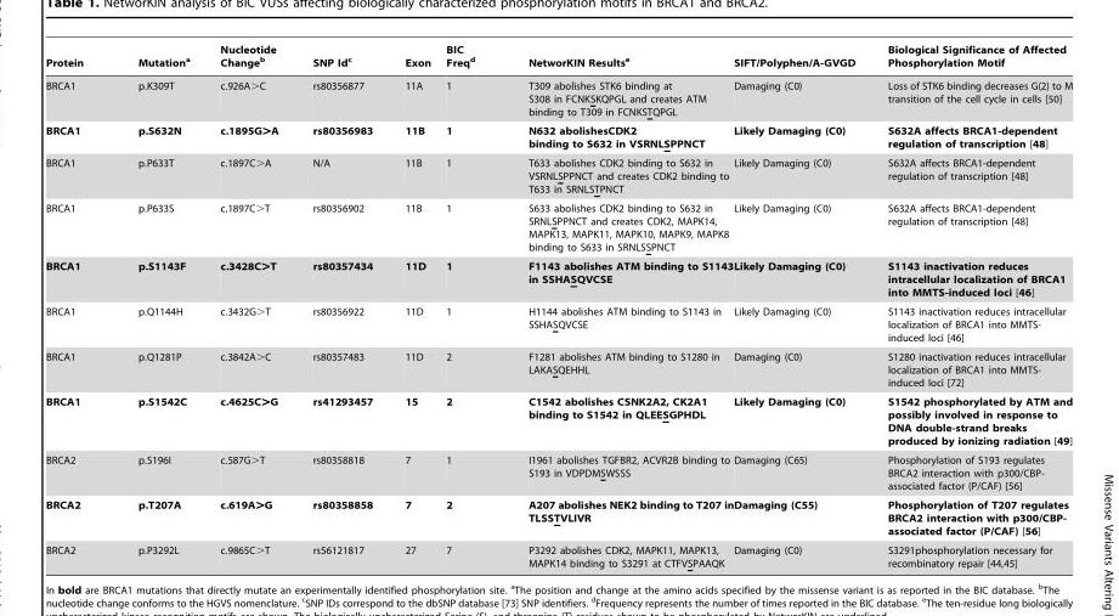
<table><thead><tr><td>Protein</td><td>Mutation<sup>a</sup></td><td>Nucleotide Change<sup>b</sup></td><td>SNP Id<sup>c</sup></td><td>Exon</td><td>BIC Freq<sup>d</sup></td><td>NetworKIN Results<sup>e</sup></td><td>SIFT/Polyphen/A-GVGD</td><td>Biological Significance of Affected Phosphorylation Motif</td></tr></thead><tbody><tr><td>BRCA1</td><td>p.K309T</td><td>c.926A&gt;C</td><td>rs80356877</td><td>11A</td><td>1</td><td>T309 abolishes STK6 binding at S308 in FCNKSKQPGL and creates ATM binding to T309 in FCNKSTQPGL</td><td>Damaging (C0)</td><td>Loss of STK6 binding decreases G(2) to M transition of the cell cycle in cells [50]</td></tr><tr><td>BRCA1</td><td>p.S632N</td><td>c.1895G&gt;A</td><td>rs80356983</td><td>11B</td><td>1</td><td>N632 abolishesCDK2 binding to S632 in VSRNLSPPNCT</td><td>Likely Damaging (C0)</td><td>S632A affects BRCA1-dependent regulation of transcription [48]</td></tr><tr><td>BRCA1</td><td>p.P633T</td><td>c.1897C&gt;A</td><td>N/A</td><td>11B</td><td>1</td><td>T633 abolishes CDK2 binding to S632 in VSRNLSPPNCT and creates CDK2 binding to T633 in SRNLSTPNCT</td><td>Likely Damaging (C0)</td><td>S632A affects BRCA1-dependent regulation of transcription [48]</td></tr><tr><td>BRCA1</td><td>p.P633S</td><td>c.1897C&gt;T</td><td>rs80356902</td><td>11B</td><td>1</td><td>S633 abolishes CDK2 binding to S632 in SRNLSPPNCT and creates CDK2, MAPK14, MAPK13, MAPK11, MAPK10, MAPK9, MAPK8 binding to S633 in SRNLSSPNCT</td><td>Likely Damaging (C0)</td><td>S632A affects BRCA1-dependent regulation of transcription [48]</td></tr><tr><td>BRCA1</td><td>p.S1143F</td><td>c.3428C&gt;T</td><td>rs80357434</td><td>11D</td><td>1</td><td>F1143 abolishes ATM binding to S1143 in SSHASQVCSE</td><td>Likely Damaging (C0)</td><td>S1143 inactivation reduces intracellular localization of BRCA1 into MMTS-induced loci [46]</td></tr><tr><td>BRCA1</td><td>p.Q1144H</td><td>c.3432G&gt;T</td><td>rs80356922</td><td>11D</td><td>1</td><td>H1144 abolishes ATM binding to S1143 in SSHASQVCSE</td><td>Likely Damaging (C0)</td><td>S1143 inactivation reduces intracellular localization of BRCA1 into MMTS- induced loci [46]</td></tr><tr><td>BRCA1</td><td>p.Q1281P</td><td>c.3842A&gt;C</td><td>rs80357483</td><td>11D</td><td>2</td><td>F1281 abolishes ATM binding to S1280 in LAKASQEHHL</td><td>Damaging (C0)</td><td>S1280 inactivation reduces intracellular localization of BRCA1 into MMTS- induced loci [72]</td></tr><tr><td>BRCA1</td><td>p.S1542C</td><td>c.4625C&gt;G</td><td>rs41293457</td><td>15</td><td>2</td><td>C1542 abolishes CSNK2A2, CK2A1 binding to S1542 in QLEESGPHDL</td><td>Likely Damaging (C0)</td><td>S1542 phosphorylated by ATM and possibly involved in response to DNA double-strand breaks produced by ionizing radiation [49]</td></tr><tr><td>BRCA2</td><td>p.S196I</td><td>c.587G&gt;T</td><td>rs80358818</td><td>7</td><td>1</td><td>I1961 abolishes TGFBR2, ACVR2B binding to S193 in VDPDMSWSSS</td><td>Damaging (C65)</td><td>Phosphorylation of S193 regulates BRCA2 interaction with p300/CBP- associated factor (P/CAF) [56]</td></tr><tr><td>BRCA2</td><td>p.T207A</td><td>c.619A&gt;G</td><td>rs80358858</td><td>7</td><td>2</td><td>A207 abolishes NEK2 binding to T207 in TLSSTVLIVR</td><td>Damaging (C55)</td><td>Phosphorylation of T207 regulates BRCA2 interaction with p300/CBP- associated factor (P/CAF) [56]</td></tr><tr><td>BRCA2</td><td>p.P3292L</td><td>c.9865C&gt;T</td><td>rs56121817</td><td>27</td><td>7</td><td>P3292 abolishes CDK2, MAPK11, MAPK13, MAPK14 binding to S3291 at CTFVSPAAQK</td><td>Damaging (C0)</td><td>S3291phosphorylation necessary for recombinatory repair [44,45]</td></tr></tbody></table>